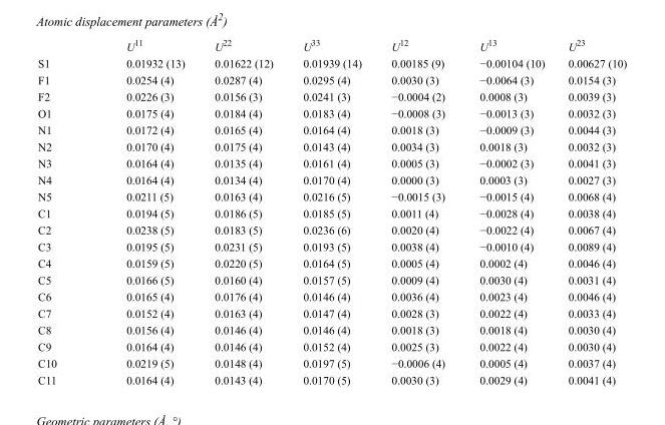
<table><thead><tr><td></td><td>U<sup>11</sup></td><td>U<sup>22</sup></td><td>U<sup>33</sup></td><td>U<sup>12</sup></td><td>U<sup>13</sup></td><td>U<sup>23</sup></td></tr></thead><tbody><tr><td>S1</td><td>0.01932 (13)</td><td>0.01622 (12)</td><td>0.01939 (14)</td><td>0.00185 (9)</td><td>−0.00104 (10)</td><td>0.00627 (10)</td></tr><tr><td>F1</td><td>0.0254 (4)</td><td>0.0287 (4)</td><td>0.0295 (4)</td><td>0.0030 (3)</td><td>−0.0064 (3)</td><td>0.0154 (3)</td></tr><tr><td>F2</td><td>0.0226 (3)</td><td>0.0156 (3)</td><td>0.0241 (3)</td><td>−0.0004 (2)</td><td>0.0008 (3)</td><td>0.0039 (3)</td></tr><tr><td>O1</td><td>0.0175 (4)</td><td>0.0184 (4)</td><td>0.0183 (4)</td><td>−0.0008 (3)</td><td>−0.0013 (3)</td><td>0.0032 (3)</td></tr><tr><td>N1</td><td>0.0172 (4)</td><td>0.0165 (4)</td><td>0.0164 (4)</td><td>0.0018 (3)</td><td>−0.0009 (3)</td><td>0.0044 (3)</td></tr><tr><td>N2</td><td>0.0170 (4)</td><td>0.0175 (4)</td><td>0.0143 (4)</td><td>0.0034 (3)</td><td>0.0018 (3)</td><td>0.0032 (3)</td></tr><tr><td>N3</td><td>0.0164 (4)</td><td>0.0135 (4)</td><td>0.0161 (4)</td><td>0.0005 (3)</td><td>−0.0002 (3)</td><td>0.0041 (3)</td></tr><tr><td>N4</td><td>0.0164 (4)</td><td>0.0134 (4)</td><td>0.0170 (4)</td><td>0.0000 (3)</td><td>0.0003 (3)</td><td>0.0027 (3)</td></tr><tr><td>N5</td><td>0.0211 (5)</td><td>0.0163 (4)</td><td>0.0216 (5)</td><td>−0.0015 (3)</td><td>−0.0015 (4)</td><td>0.0068 (4)</td></tr><tr><td>C1</td><td>0.0194 (5)</td><td>0.0186 (5)</td><td>0.0185 (5)</td><td>0.0011 (4)</td><td>−0.0028 (4)</td><td>0.0038 (4)</td></tr><tr><td>C2</td><td>0.0238 (5)</td><td>0.0183 (5)</td><td>0.0236 (6)</td><td>0.0020 (4)</td><td>−0.0022 (4)</td><td>0.0067 (4)</td></tr><tr><td>C3</td><td>0.0195 (5)</td><td>0.0231 (5)</td><td>0.0193 (5)</td><td>0.0038 (4)</td><td>−0.0010 (4)</td><td>0.0089 (4)</td></tr><tr><td>C4</td><td>0.0159 (5)</td><td>0.0220 (5)</td><td>0.0164 (5)</td><td>0.0005 (4)</td><td>0.0002 (4)</td><td>0.0046 (4)</td></tr><tr><td>C5</td><td>0.0166 (5)</td><td>0.0160 (4)</td><td>0.0157 (5)</td><td>0.0009 (4)</td><td>0.0030 (4)</td><td>0.0031 (4)</td></tr><tr><td>C6</td><td>0.0165 (4)</td><td>0.0176 (4)</td><td>0.0146 (4)</td><td>0.0036 (4)</td><td>0.0023 (4)</td><td>0.0046 (4)</td></tr><tr><td>C7</td><td>0.0152 (4)</td><td>0.0163 (4)</td><td>0.0147 (4)</td><td>0.0028 (3)</td><td>0.0022 (4)</td><td>0.0033 (4)</td></tr><tr><td>C8</td><td>0.0156 (4)</td><td>0.0146 (4)</td><td>0.0146 (4)</td><td>0.0018 (3)</td><td>0.0018 (4)</td><td>0.0030 (4)</td></tr><tr><td>C9</td><td>0.0164 (4)</td><td>0.0146 (4)</td><td>0.0152 (4)</td><td>0.0025 (3)</td><td>0.0022 (4)</td><td>0.0030 (4)</td></tr><tr><td>C10</td><td>0.0219 (5)</td><td>0.0148 (4)</td><td>0.0197 (5)</td><td>−0.0006 (4)</td><td>0.0005 (4)</td><td>0.0037 (4)</td></tr><tr><td>C11</td><td>0.0164 (4)</td><td>0.0143 (4)</td><td>0.0170 (5)</td><td>0.0030 (3)</td><td>0.0029 (4)</td><td>0.0041 (4)</td></tr></tbody></table>